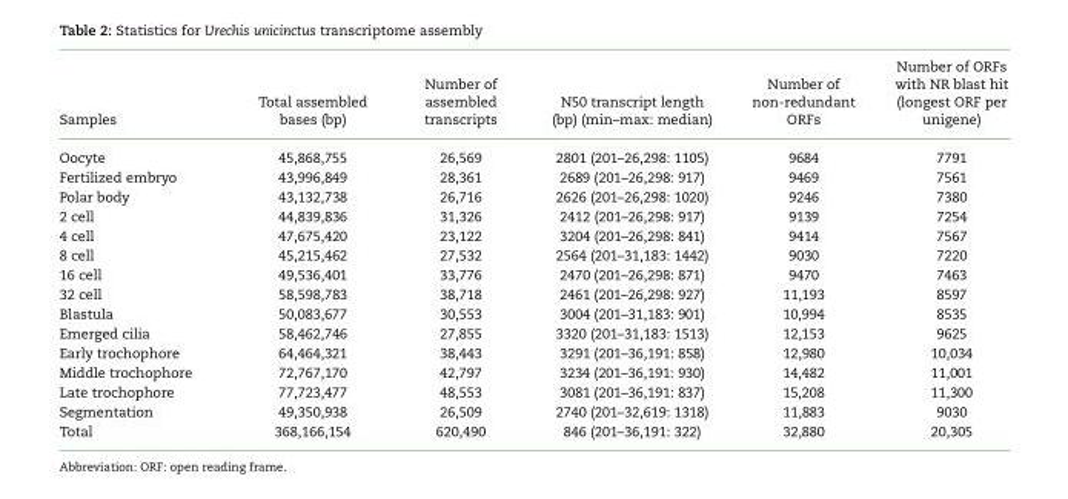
<table><thead><tr><td>Samples</td><td>Total assembled bases (bp)</td><td>Number of assembled transcripts</td><td>N50 transcript length (bp) (min–max: median)</td><td>Number of non-redundant ORFs</td><td>Number of ORFs with NR blast hit (longest ORF per unigene)</td></tr></thead><tbody><tr><td>Oocyte</td><td>45,868,755</td><td>26,569</td><td>2801 (201–26,298: 1105)</td><td>9684</td><td>7791</td></tr><tr><td>Fertilized embryo</td><td>43,996,849</td><td>28,361</td><td>2689 (201–26,298: 917)</td><td>9469</td><td>7561</td></tr><tr><td>Polar body</td><td>43,132,738</td><td>26,716</td><td>2626 (201–26,298: 1020)</td><td>9246</td><td>7380</td></tr><tr><td>2 cell</td><td>44,839,836</td><td>31,326</td><td>2412 (201–26,298: 917)</td><td>9139</td><td>7254</td></tr><tr><td>4 cell</td><td>47,675,420</td><td>23,122</td><td>3204 (201–26,298: 841)</td><td>9414</td><td>7567</td></tr><tr><td>8 cell</td><td>45,215,462</td><td>27,532</td><td>2564 (201–31,183: 1442)</td><td>9030</td><td>7220</td></tr><tr><td>16 cell</td><td>49,536,401</td><td>33,776</td><td>2470 (201–26,298: 871)</td><td>9470</td><td>7463</td></tr><tr><td>32 cell</td><td>58,598,783</td><td>38,718</td><td>2461 (201–26,298: 927)</td><td>11,193</td><td>8597</td></tr><tr><td>Blastula</td><td>50,083,677</td><td>30,553</td><td>3004 (201–31,183: 901)</td><td>10,994</td><td>8535</td></tr><tr><td>Emerged cilia</td><td>58,462,746</td><td>27,855</td><td>3320 (201–31,183: 1513)</td><td>12,153</td><td>9625</td></tr><tr><td>Early trochophore</td><td>64,464,321</td><td>38,443</td><td>3291 (201–36,191: 858)</td><td>12,980</td><td>10,034</td></tr><tr><td>Middle trochophore</td><td>72,767,170</td><td>42,797</td><td>3234 (201–36,191: 930)</td><td>14,482</td><td>11,001</td></tr><tr><td>Late trochophore</td><td>77,723,477</td><td>48,553</td><td>3081 (201–36,191: 837)</td><td>15,208</td><td>11,300</td></tr><tr><td>Segmentation</td><td>49,350,938</td><td>26,509</td><td>2740 (201–32,619: 1318)</td><td>11,883</td><td>9030</td></tr><tr><td>Total</td><td>368,166,154</td><td>620,490</td><td>846 (201–36,191: 322)</td><td>32,880</td><td>20,305</td></tr></tbody></table>